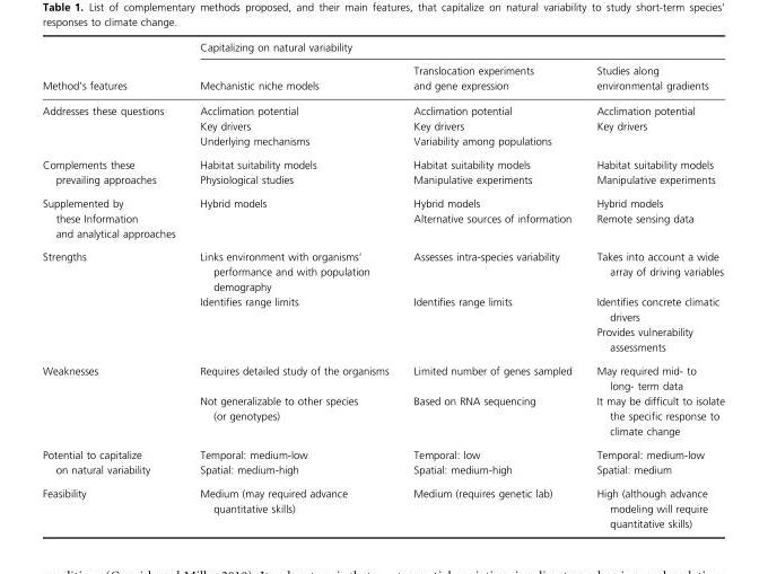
<table><thead><tr><td rowspan="2">Method’s features</td><td colspan="3">Capitalizing on natural variability</td></tr><tr><td>Mechanistic niche models</td><td>Translocation experiments and gene expression</td><td>Studies along environmental gradients</td></tr></thead><tbody><tr><td rowspan="3">Addresses these questions</td><td>Acclimation potential</td><td>Acclimation potential</td><td>Acclimation potential</td></tr><tr><td>Key drivers</td><td>Key drivers</td><td>Key drivers</td></tr><tr><td>Underlying mechanisms</td><td>Variability among populations</td><td></td></tr><tr><td rowspan="2">Complements these prevailing approaches</td><td>Habitat suitability models</td><td>Habitat suitability models</td><td>Habitat suitability models</td></tr><tr><td>Physiological studies</td><td>Manipulative experiments</td><td>Manipulative experiments</td></tr><tr><td rowspan="2">Supplemented by these Information and analytical approaches</td><td>Hybrid models</td><td>Hybrid models</td><td>Hybrid models</td></tr><tr><td></td><td>Alternative sources of information</td><td>Remote sensing data</td></tr><tr><td rowspan="3">Strengths</td><td>Links environment with organisms’ performance and with population demography</td><td>Assesses intra-species variability</td><td>Takes into account a wide array of driving variables</td></tr><tr><td>Identifies range limits</td><td>Identifies range limits</td><td>Identifies concrete climatic drivers</td></tr><tr><td></td><td></td><td>Provides vulnerability assessments</td></tr><tr><td rowspan="2">Weaknesses</td><td>Requires detailed study of the organisms</td><td>Limited number of genes sampled</td><td>May required mid- to long- term data</td></tr><tr><td>Not generalizable to other species (or genotypes)</td><td>Based on RNA sequencing</td><td>It may be difficult to isolate the specific response to climate change</td></tr><tr><td rowspan="2">Potential to capitalize on natural variability</td><td>Temporal: medium-low</td><td>Temporal: low</td><td>Temporal: medium-low</td></tr><tr><td>Spatial: medium-high</td><td>Spatial: medium-high</td><td>Spatial: medium</td></tr><tr><td>Feasibility</td><td>Medium (may required advance quantitative skills)</td><td>Medium (requires genetic lab)</td><td>High (although advance modeling will require quantitative skills)</td></tr></tbody></table>